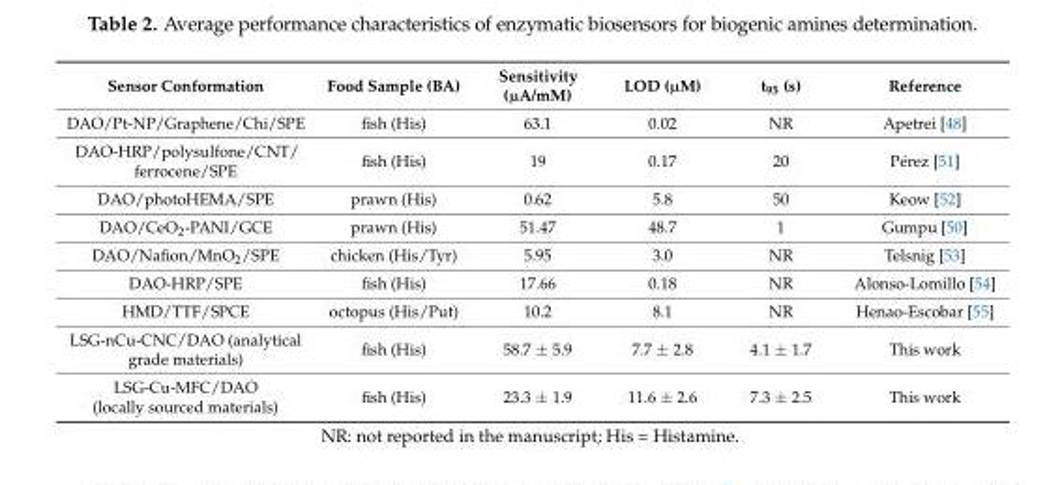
<table><thead><tr><td>Sensor Conformation</td><td>Food Sample (BA)</td><td>Sensitivity (µA/mM)</td><td>LOD (µM)</td><td>t<sub>95</sub> (s)</td><td>Reference</td></tr></thead><tbody><tr><td>DAO/Pt-NP/Graphene/Chi/SPE</td><td>fish (His)</td><td>63.1</td><td>0.02</td><td>NR</td><td>Apetrei [48]</td></tr><tr><td>DAO-HRP/polysulfone/CNT/ ferrocene/SPE</td><td>fish (His)</td><td>19</td><td>0.17</td><td>20</td><td>Pérez [51]</td></tr><tr><td>DAO/photoHEMA/SPE</td><td>prawn (His)</td><td>0.62</td><td>5.8</td><td>50</td><td>Keow [52]</td></tr><tr><td>DAO/CeO<sub>2</sub>-PANI/GCE</td><td>prawn (His)</td><td>51.47</td><td>48.7</td><td>1</td><td>Gumpu [50]</td></tr><tr><td>DAO/Nafion/MnO<sub>2</sub>/SPE</td><td>chicken (His/Tyr)</td><td>5.95</td><td>3.0</td><td>NR</td><td>Telsnig [53]</td></tr><tr><td>DAO-HRP/SPE</td><td>fish (His)</td><td>17.66</td><td>0.18</td><td>NR</td><td>Alonso-Lomillo [54]</td></tr><tr><td>HMD/TTF/SPCE</td><td>octopus (His/Put)</td><td>10.2</td><td>8.1</td><td>NR</td><td>Henao-Escobar [55]</td></tr><tr><td>LSG-nCu-CNC/DAO (analytical grade materials)</td><td>fish (His)</td><td>58.7 ± 5.9</td><td>7.7 ± 2.8</td><td>4.1 ± 1.7</td><td>This work</td></tr><tr><td>LSG-Cu-MFC/DAO (locally sourced materials)</td><td>fish (His)</td><td>23.3 ± 1.9</td><td>11.6 ± 2.6</td><td>7.3 ± 2.5</td><td>This work</td></tr></tbody></table>